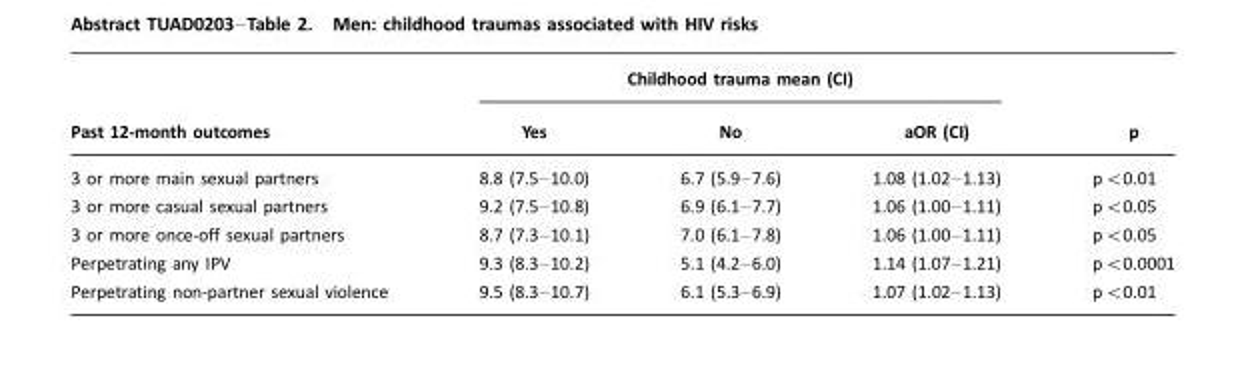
<table><thead><tr><td rowspan="2">Past 12-month outcomes</td><td colspan="3">Childhood trauma mean (CI)</td><td rowspan="2">p</td></tr><tr><td>Yes</td><td>No</td><td>aOR (CI)</td></tr></thead><tbody><tr><td>3 or more main sexual partners</td><td>8.8 (7.5–10.0)</td><td>6.7 (5.9–7.6)</td><td>1.08 (1.02–1.13)</td><td>p&lt;0.01</td></tr><tr><td>3 or more casual sexual partners</td><td>9.2 (7.5–10.8)</td><td>6.9 (6.1–7.7)</td><td>1.06 (1.00–1.11)</td><td>p&lt;0.05</td></tr><tr><td>3 or more once-off sexual partners</td><td>8.7 (7.3–10.1)</td><td>7.0 (6.1–7.8)</td><td>1.06 (1.00–1.11)</td><td>p&lt;0.05</td></tr><tr><td>Perpetrating any IPV</td><td>9.3 (8.3–10.2)</td><td>5.1 (4.2–6.0)</td><td>1.14 (1.07–1.21)</td><td>p&lt;0.0001</td></tr><tr><td>Perpetrating non-partner sexual violence</td><td>9.5 (8.3–10.7)</td><td>6.1 (5.3–6.9)</td><td>1.07 (1.02–1.13)</td><td>p&lt;0.01</td></tr></tbody></table>